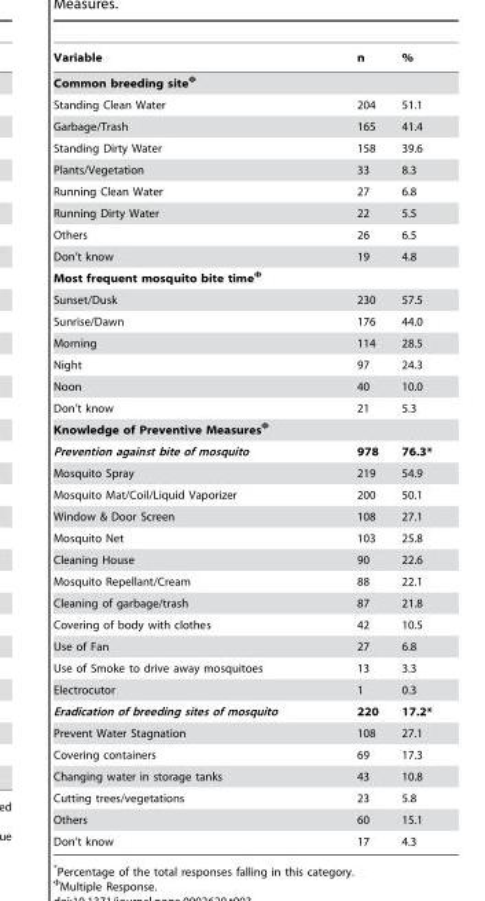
<table><thead><tr><td>Variable</td><td>n</td><td>%</td></tr></thead><tbody><tr><td colspan="3">Common breeding siteΦ</td></tr><tr><td>Standing Clean Water</td><td>204</td><td>51.1</td></tr><tr><td>Garbage/Trash</td><td>165</td><td>41.4</td></tr><tr><td>Standing Dirty Water</td><td>158</td><td>39.6</td></tr><tr><td>Plants/Vegetation</td><td>33</td><td>8.3</td></tr><tr><td>Running Clean Water</td><td>27</td><td>6.8</td></tr><tr><td>Running Dirty Water</td><td>22</td><td>5.5</td></tr><tr><td>Others</td><td>26</td><td>6.5</td></tr><tr><td>Don’t know</td><td>19</td><td>4.8</td></tr><tr><td colspan="3">Most frequent mosquito bite timeΦ</td></tr><tr><td>Sunset/Dusk</td><td>230</td><td>57.5</td></tr><tr><td>Sunrise/Dawn</td><td>176</td><td>44.0</td></tr><tr><td>Morning</td><td>114</td><td>28.5</td></tr><tr><td>Night</td><td>97</td><td>24.3</td></tr><tr><td>Noon</td><td>40</td><td>10.0</td></tr><tr><td>Don’t know</td><td>21</td><td>5.3</td></tr><tr><td colspan="3">Knowledge of Preventive MeasuresΦ</td></tr><tr><td>Prevention against bite of mosquito</td><td>978</td><td>76.3*</td></tr><tr><td>Mosquito Spray</td><td>219</td><td>54.9</td></tr><tr><td>Mosquito Mat/Coil/Liquid Vaporizer</td><td>200</td><td>50.1</td></tr><tr><td>Window &amp; Door Screen</td><td>108</td><td>27.1</td></tr><tr><td>Mosquito Net</td><td>103</td><td>25.8</td></tr><tr><td>Cleaning House</td><td>90</td><td>22.6</td></tr><tr><td>Mosquito Repellant/Cream</td><td>88</td><td>22.1</td></tr><tr><td>Cleaning of garbage/trash</td><td>87</td><td>21.8</td></tr><tr><td>Covering of body with clothes</td><td>42</td><td>10.5</td></tr><tr><td>Use of Fan</td><td>27</td><td>6.8</td></tr><tr><td>Use of Smoke to drive away mosquitoes</td><td>13</td><td>3.3</td></tr><tr><td>Electrocutor</td><td>1</td><td>0.3</td></tr><tr><td>Eradication of breeding sites of mosquito</td><td>220</td><td>17.2*</td></tr><tr><td>Prevent Water Stagnation</td><td>108</td><td>27.1</td></tr><tr><td>Covering containers</td><td>69</td><td>17.3</td></tr><tr><td>Changing water in storage tanks</td><td>43</td><td>10.8</td></tr><tr><td>Cutting trees/vegetations</td><td>23</td><td>5.8</td></tr><tr><td>Others</td><td>60</td><td>15.1</td></tr><tr><td>Don’t know</td><td>17</td><td>4.3</td></tr></tbody></table>